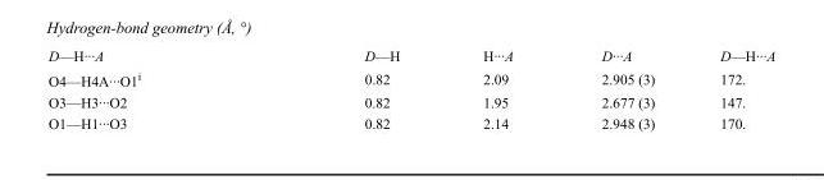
<table><tbody><tr><td>D—H···A</td><td>D—H</td><td>H···A</td><td>D···A</td><td>D—H···A</td></tr><tr><td>O4—H4A···O1<sup>i</sup></td><td>0.82</td><td>2.09</td><td>2.905 (3)</td><td>172.</td></tr><tr><td>O3—H3···O2</td><td>0.82</td><td>1.95</td><td>2.677 (3)</td><td>147.</td></tr><tr><td>O1—H1···O3</td><td>0.82</td><td>2.14</td><td>2.948 (3)</td><td>170.</td></tr></tbody></table>